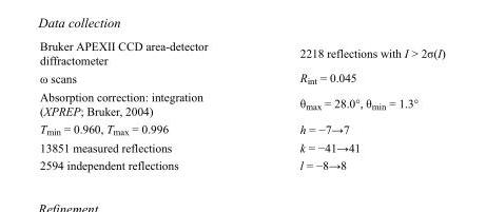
<table><tbody><tr><td>Bruker APEXII CCD area-detector diffractometer</td><td>2218 reflections with I &gt; 2σ(I)</td></tr><tr><td>ω scans</td><td>R<sub>int</sub> = 0.045</td></tr><tr><td>Absorption correction: integration (XPREP; Bruker, 2004)</td><td>θ<sub>max</sub> = 28.0°, θ<sub>min</sub> = 1.3°</td></tr><tr><td>T<sub>min</sub> = 0.960, T<sub>max</sub> = 0.996</td><td>h = −7→7</td></tr><tr><td>13851 measured reflections</td><td>k = −41→41</td></tr><tr><td>2594 independent reflections</td><td>l = −8→8</td></tr></tbody></table>